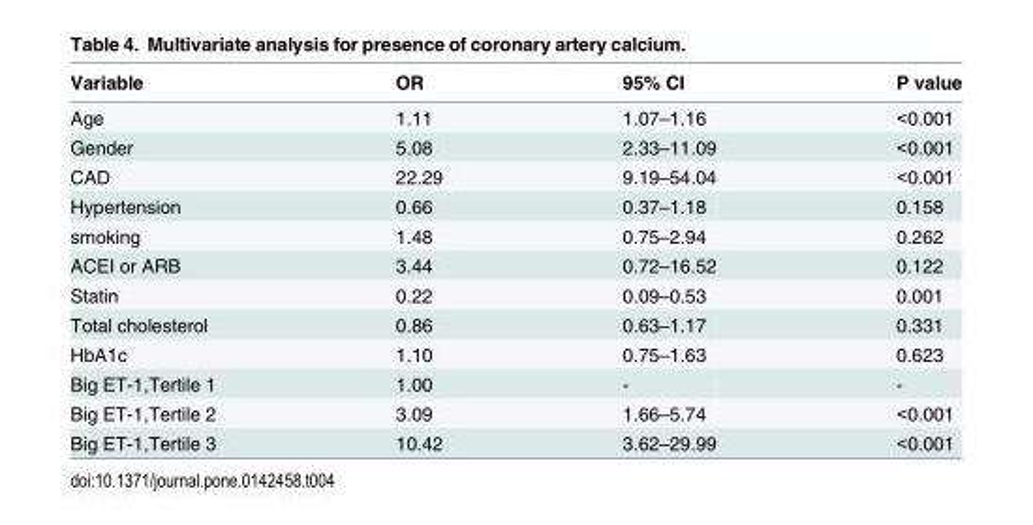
<table><thead><tr><td>Variable</td><td>OR</td><td>95% CI</td><td>P value</td></tr></thead><tbody><tr><td>Age</td><td>1.11</td><td>1.07–1.16</td><td>&lt;0.001</td></tr><tr><td>Gender</td><td>5.08</td><td>2.33–11.09</td><td>&lt;0.001</td></tr><tr><td>CAD</td><td>22.29</td><td>9.19–54.04</td><td>&lt;0.001</td></tr><tr><td>Hypertension</td><td>0.66</td><td>0.37–1.18</td><td>0.158</td></tr><tr><td>smoking</td><td>1.48</td><td>0.75–2.94</td><td>0.262</td></tr><tr><td>ACEI or ARB</td><td>3.44</td><td>0.72–16.52</td><td>0.122</td></tr><tr><td>Statin</td><td>0.22</td><td>0.09–0.53</td><td>0.001</td></tr><tr><td>Total cholesterol</td><td>0.86</td><td>0.63–1.17</td><td>0.331</td></tr><tr><td>HbA1c</td><td>1.10</td><td>0.75–1.63</td><td>0.623</td></tr><tr><td>Big ET-1,Tertile 1</td><td>1.00</td><td>-</td><td>-</td></tr><tr><td>Big ET-1,Tertile 2</td><td>3.09</td><td>1.66–5.74</td><td>&lt;0.001</td></tr><tr><td>Big ET-1,Tertile 3</td><td>10.42</td><td>3.62–29.99</td><td>&lt;0.001</td></tr></tbody></table>